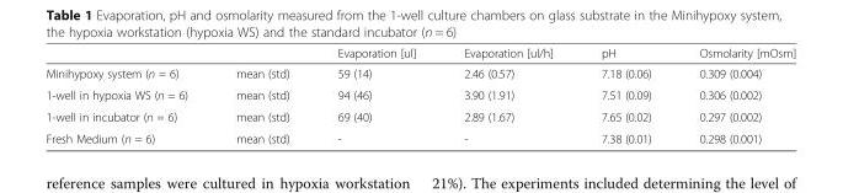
<table><thead><tr><td></td><td></td><td>Evaporation [ul]</td><td>Evaporation [ul/h]</td><td>pH</td><td>Osmolarity [mOsm]</td></tr></thead><tbody><tr><td>Minihypoxy system (n = 6)</td><td>mean (std)</td><td>59 (14)</td><td>2.46 (0.57)</td><td>7.18 (0.06)</td><td>0.309 (0.004)</td></tr><tr><td>1-well in hypoxia WS (n = 6)</td><td>mean (std)</td><td>94 (46)</td><td>3.90 (1.91)</td><td>7.51 (0.09)</td><td>0.306 (0.002)</td></tr><tr><td>1-well in incubator (n = 6)</td><td>mean (std)</td><td>69 (40)</td><td>2.89 (1.67)</td><td>7.65 (0.02)</td><td>0.297 (0.002)</td></tr><tr><td>Fresh Medium (n = 6)</td><td>mean (std)</td><td>-</td><td>-</td><td>7.38 (0.01)</td><td>0.298 (0.001)</td></tr></tbody></table>